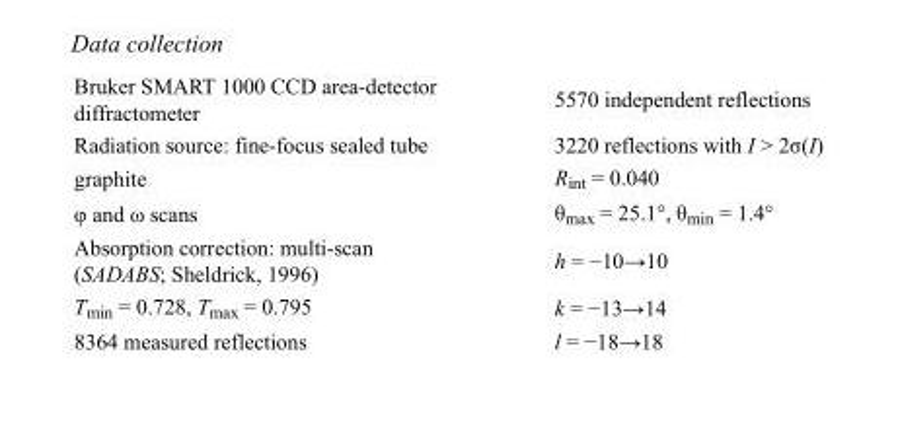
<table><tbody><tr><td>Bruker SMART 1000 CCD area-detector diffractometer</td><td>5570 independent reflections</td></tr><tr><td>Radiation source: fine-focus sealed tube</td><td>3220 reflections with I &gt; 2σ(I)</td></tr><tr><td>graphite</td><td>R<sub>int</sub> = 0.040</td></tr><tr><td>φ and ω scans</td><td>θ<sub>max</sub> = 25.1°, θ<sub>min</sub> = 1.4°</td></tr><tr><td>Absorption correction: multi-scan (SADABS; Sheldrick, 1996)</td><td>h = −10→10</td></tr><tr><td>T<sub>min</sub> = 0.728, T<sub>max</sub> = 0.795</td><td>k = −13→14</td></tr><tr><td>8364 measured reflections</td><td>l = −18→18</td></tr></tbody></table>